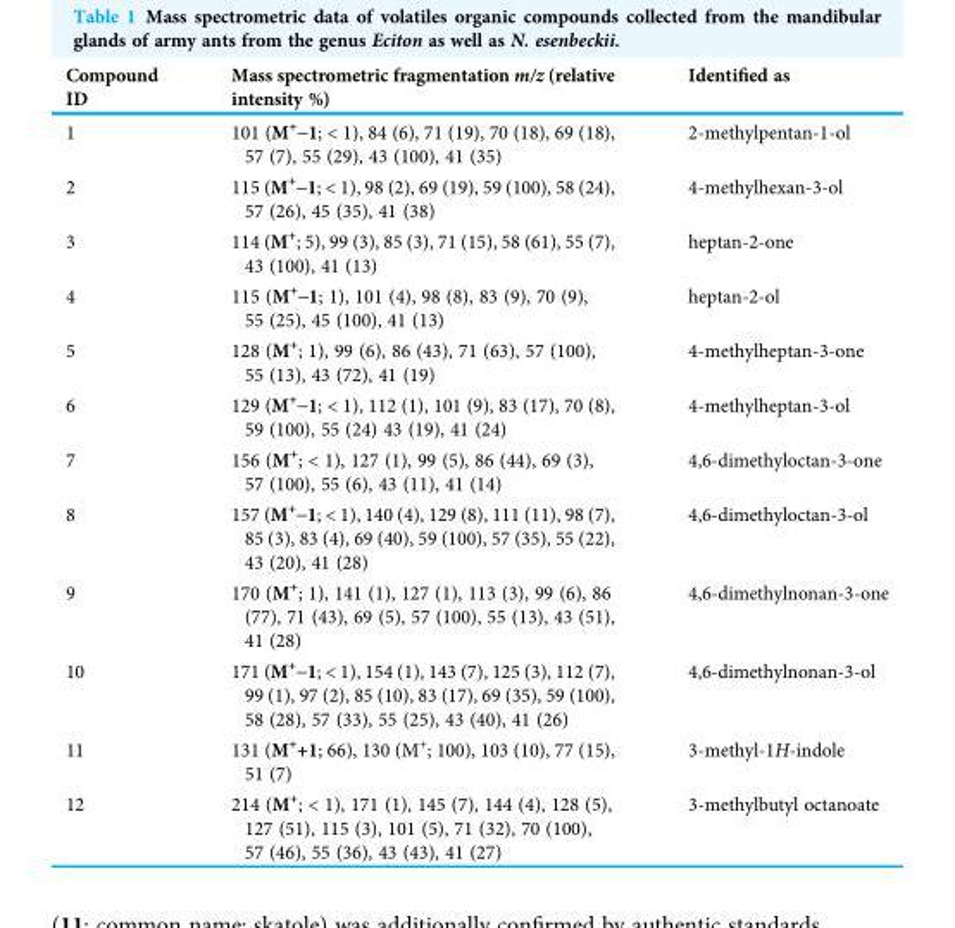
<table><thead><tr><td>Compound ID</td><td>Mass spectrometric fragmentation m/z (relative intensity %)</td><td>Identified as</td></tr></thead><tbody><tr><td>1</td><td>101 (M<sup>+</sup>-1; &lt; 1), 84 (6), 71 (19), 70 (18), 69 (18), 57 (7), 55 (29), 43 (100), 41 (35)</td><td>2-methylpentan-1-ol</td></tr><tr><td>2</td><td>115 (M<sup>+</sup>-1; &lt; 1), 98 (2), 69 (19), 59 (100), 58 (24), 57 (26), 45 (35), 41 (38)</td><td>4-methylhexan-3-ol</td></tr><tr><td>3</td><td>114 (M<sup>+</sup>; 5), 99 (3), 85 (3), 71 (15), 58 (61), 55 (7), 43 (100), 41 (13)</td><td>heptan-2-one</td></tr><tr><td>4</td><td>115 (M<sup>+</sup>-1; 1), 101 (4), 98 (8), 83 (9), 70 (9), 55 (25), 45 (100), 41 (13)</td><td>heptan-2-ol</td></tr><tr><td>5</td><td>128 (M<sup>+</sup>; 1), 99 (6), 86 (43), 71 (63), 57 (100), 55 (13), 43 (72), 41 (19)</td><td>4-methylheptan-3-one</td></tr><tr><td>6</td><td>129 (M<sup>+</sup>-1; &lt; 1), 112 (1), 101 (9), 83 (17), 70 (8), 59 (100), 55 (24) 43 (19), 41 (24)</td><td>4-methylheptan-3-ol</td></tr><tr><td>7</td><td>156 (M<sup>+</sup>; &lt; 1), 127 (1), 99 (5), 86 (44), 69 (3), 57 (100), 55 (6), 43 (11), 41 (14)</td><td>4,6-dimethyloctan-3-one</td></tr><tr><td>8</td><td>157 (M<sup>+</sup>-1; &lt; 1), 140 (4), 129 (8), 111 (11), 98 (7), 85 (3), 83 (4), 69 (40), 59 (100), 57 (35), 55 (22), 43 (20), 41 (28)</td><td>4,6-dimethyloctan-3-ol</td></tr><tr><td>9</td><td>170 (M<sup>+</sup>; 1), 141 (1), 127 (1), 113 (3), 99 (6), 86 (77), 71 (43), 69 (5), 57 (100), 55 (13), 43 (51), 41 (28)</td><td>4,6-dimethylnonan-3-one</td></tr><tr><td>10</td><td>171 (M<sup>+</sup>-1; &lt; 1), 154 (1), 143 (7), 125 (3), 112 (7), 99 (1), 97 (2), 85 (10), 83 (17), 69 (35), 59 (100), 58 (28), 57 (33), 55 (25), 43 (40), 41 (26)</td><td>4,6-dimethylnonan-3-ol</td></tr><tr><td>11</td><td>131 (M<sup>+</sup>+1; 66), 130 (M<sup>+</sup>; 100), 103 (10), 77 (15), 51 (7)</td><td>3-methyl-1H-indole</td></tr><tr><td>12</td><td>214 (M<sup>+</sup>; &lt; 1), 171 (1), 145 (7), 144 (4), 128 (5), 127 (51), 115 (3), 101 (5), 71 (32), 70 (100), 57 (46), 55 (36), 43 (43), 41 (27)</td><td>3-methylbutyl octanoate</td></tr></tbody></table>